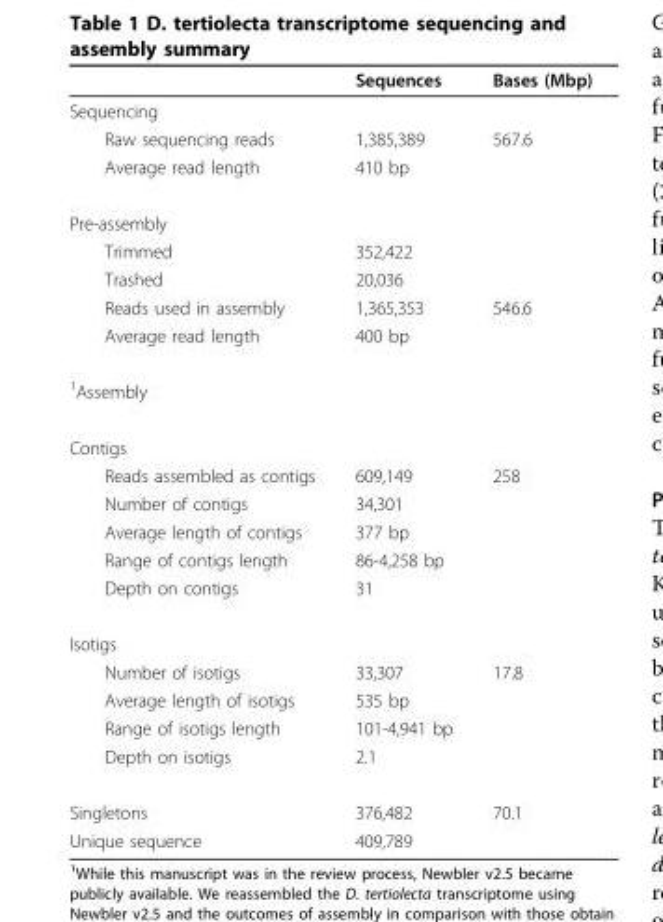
<table><thead><tr><td></td><td>Sequences</td><td>Bases (Mbp)</td></tr></thead><tbody><tr><td colspan="3">Sequencing</td></tr><tr><td>Raw sequencing reads</td><td>1,385,389</td><td>567.6</td></tr><tr><td>Average read length</td><td>410 bp</td><td></td></tr><tr><td colspan="3">Pre-assembly</td></tr><tr><td>Trimmed</td><td>352,422</td><td></td></tr><tr><td>Trashed</td><td>20,036</td><td></td></tr><tr><td>Reads used in assembly</td><td>1,365,353</td><td>546.6</td></tr><tr><td>Average read length</td><td>400 bp</td><td></td></tr><tr><td colspan="3"><sup>1</sup>Assembly</td></tr><tr><td colspan="3">Contigs</td></tr><tr><td>Reads assembled as contigs</td><td>609,149</td><td>258</td></tr><tr><td>Number of contigs</td><td>34,301</td><td></td></tr><tr><td>Average length of contigs</td><td>377 bp</td><td></td></tr><tr><td>Range of contigs length</td><td>86-4,258 bp</td><td></td></tr><tr><td>Depth on contigs</td><td>31</td><td></td></tr><tr><td colspan="3">Isotigs</td></tr><tr><td>Number of isotigs</td><td>33,307</td><td>17.8</td></tr><tr><td>Average length of isotigs</td><td>535 bp</td><td></td></tr><tr><td>Range of isotigs length</td><td>101-4,941 bp</td><td></td></tr><tr><td>Depth on isotigs</td><td>2.1</td><td></td></tr><tr><td>Singletons</td><td>376,482</td><td>70.1</td></tr><tr><td>Unique sequence</td><td>409,789</td><td></td></tr></tbody></table>